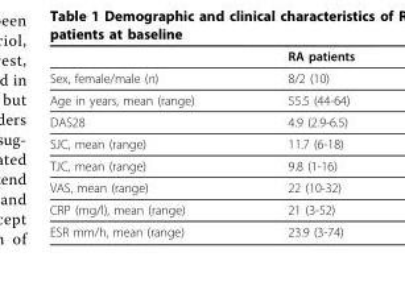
<table><thead><tr><td></td><td>RA patients</td></tr></thead><tbody><tr><td>Sex, female/male (n)</td><td>8/2 (10)</td></tr><tr><td>Age in years, mean (range)</td><td>55.5 (44-64)</td></tr><tr><td>DAS28</td><td>4.9 (2.9-6.5)</td></tr><tr><td>SJC, mean (range)</td><td>11.7 (6-18)</td></tr><tr><td>TJC, mean (range)</td><td>9.8 (1-16)</td></tr><tr><td>VAS, mean (range)</td><td>22 (10-32)</td></tr><tr><td>CRP (mg/l), mean (range)</td><td>21 (3-52)</td></tr><tr><td>ESR mm/h, mean (range)</td><td>23.9 (3-74)</td></tr></tbody></table>